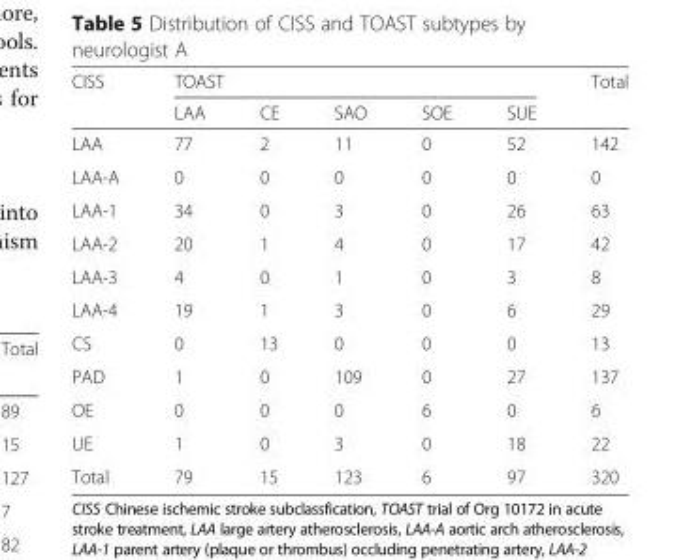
<table><thead><tr><td rowspan="2">CISS</td><td colspan="5">TOAST</td><td rowspan="2">Total</td></tr><tr><td>LAA</td><td>CE</td><td>SAO</td><td>SOE</td><td>SUE</td></tr></thead><tbody><tr><td>LAA</td><td>77</td><td>2</td><td>11</td><td>0</td><td>52</td><td>142</td></tr><tr><td>LAA-A</td><td>0</td><td>0</td><td>0</td><td>0</td><td>0</td><td>0</td></tr><tr><td>LAA-1</td><td>34</td><td>0</td><td>3</td><td>0</td><td>26</td><td>63</td></tr><tr><td>LAA-2</td><td>20</td><td>1</td><td>4</td><td>0</td><td>17</td><td>42</td></tr><tr><td>LAA-3</td><td>4</td><td>0</td><td>1</td><td>0</td><td>3</td><td>8</td></tr><tr><td>LAA-4</td><td>19</td><td>1</td><td>3</td><td>0</td><td>6</td><td>29</td></tr><tr><td>CS</td><td>0</td><td>13</td><td>0</td><td>0</td><td>0</td><td>13</td></tr><tr><td>PAD</td><td>1</td><td>0</td><td>109</td><td>0</td><td>27</td><td>137</td></tr><tr><td>OE</td><td>0</td><td>0</td><td>0</td><td>6</td><td>0</td><td>6</td></tr><tr><td>UE</td><td>1</td><td>0</td><td>3</td><td>0</td><td>18</td><td>22</td></tr><tr><td>Total</td><td>79</td><td>15</td><td>123</td><td>6</td><td>97</td><td>320</td></tr></tbody></table>